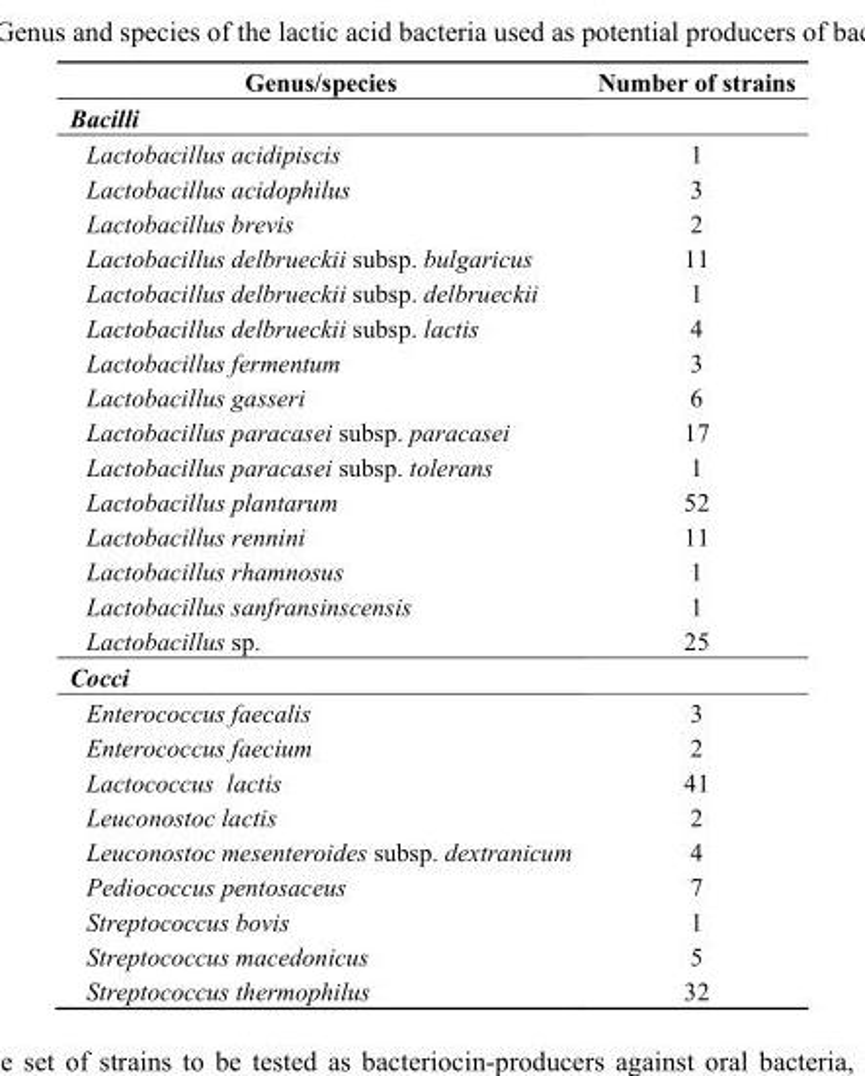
<table><thead><tr><td>Genus/species</td><td>Number of strains</td></tr></thead><tbody><tr><td colspan="2">Bacilli</td></tr><tr><td>Lactobacillus acidipiscis</td><td>1</td></tr><tr><td>Lactobacillus acidophilus</td><td>3</td></tr><tr><td>Lactobacillus brevis</td><td>2</td></tr><tr><td>Lactobacillus delbrueckii subsp. bulgaricus</td><td>11</td></tr><tr><td>Lactobacillus delbrueckii subsp. delbrueckii</td><td>1</td></tr><tr><td>Lactobacillus delbrueckii subsp. lactis</td><td>4</td></tr><tr><td>Lactobacillus fermentum</td><td>3</td></tr><tr><td>Lactobacillus gasseri</td><td>6</td></tr><tr><td>Lactobacillus paracasei subsp. paracasei</td><td>17</td></tr><tr><td>Lactobacillus paracasei subsp. tolerans</td><td>1</td></tr><tr><td>Lactobacillus plantarum</td><td>52</td></tr><tr><td>Lactobacillus rennini</td><td>11</td></tr><tr><td>Lactobacillus rhamnosus</td><td>1</td></tr><tr><td>Lactobacillus sanfransinscensis</td><td>1</td></tr><tr><td>Lactobacillus sp.</td><td>25</td></tr><tr><td colspan="2">Cocci</td></tr><tr><td>Enterococcus faecalis</td><td>3</td></tr><tr><td>Enterococcus faecium</td><td>2</td></tr><tr><td>Lactococcus lactis</td><td>41</td></tr><tr><td>Leuconostoc lactis</td><td>2</td></tr><tr><td>Leuconostoc mesenteroides subsp. dextranicum</td><td>4</td></tr><tr><td>Pediococcus pentosaceus</td><td>7</td></tr><tr><td>Streptococcus bovis</td><td>1</td></tr><tr><td>Streptococcus macedonicus</td><td>5</td></tr><tr><td>Streptococcus thermophilus</td><td>32</td></tr></tbody></table>